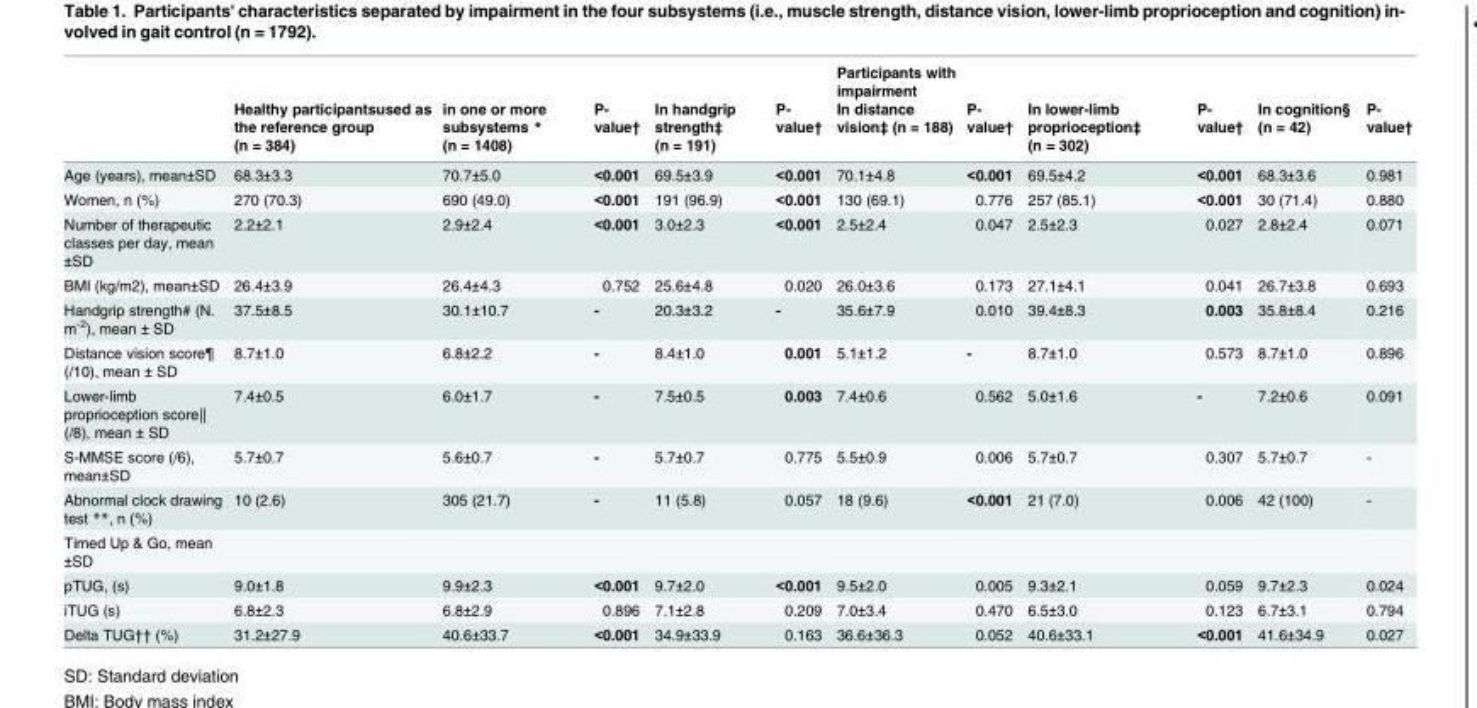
<table><thead><tr><td rowspan="2"></td><td rowspan="2">Healthy participantsused as the reference group (n = 384)</td><td rowspan="2">in one or more subsystems * (n = 1408)</td><td rowspan="2">P- value†</td><td rowspan="2">In handgrip strength‡ (n = 191)</td><td rowspan="2">P- value†</td><td rowspan="2">Participants with impairment In distance vision‡ (n = 188)</td><td rowspan="2">P- value†</td><td rowspan="2">In lower-limb proprioception‡ (n = 302)</td><td rowspan="2">P- value†</td><td rowspan="2">In cognition§ (n = 42)</td><td rowspan="2">P- value†</td></tr><tr></tr></thead><tbody><tr><td>Age (years), mean±SD</td><td>68.3±3.3</td><td>70.7±5.0</td><td>&lt;0.001</td><td>69.5±3.9</td><td>&lt;0.001</td><td>70.1±4.8</td><td>&lt;0.001</td><td>69.5±4.2</td><td>&lt;0.001</td><td>68.3±3.6</td><td>0.981</td></tr><tr><td>Women, n (%)</td><td>270 (70.3)</td><td>690 (49.0)</td><td>&lt;0.001</td><td>191 (96.9)</td><td>&lt;0.001</td><td>130 (69.1)</td><td>0.776</td><td>257 (85.1)</td><td>&lt;0.001</td><td>30 (71.4)</td><td>0.880</td></tr><tr><td>Number of therapeutic classes per day, mean ±SD</td><td>2.2±2.1</td><td>2.9±2.4</td><td>&lt;0.001</td><td>3.0±2.3</td><td>&lt;0.001</td><td>2.5±2.4</td><td>0.047</td><td>2.5±2.3</td><td>0.027</td><td>2.8±2.4</td><td>0.071</td></tr><tr><td>BMI (kg/m2), mean±SD</td><td>26.4±3.9</td><td>26.4±4.3</td><td>0.752</td><td>25.6±4.8</td><td>0.020</td><td>26.0±3.6</td><td>0.173</td><td>27.1±4.1</td><td>0.041</td><td>26.7±3.8</td><td>0.693</td></tr><tr><td>Handgrip strength# (N. m<sup>-2</sup>), mean ± SD</td><td>37.5±8.5</td><td>30.1±10.7</td><td>-</td><td>20.3±3.2</td><td>-</td><td>35.6±7.9</td><td>0.010</td><td>39.4±8.3</td><td>0.003</td><td>35.8±8.4</td><td>0.216</td></tr><tr><td>Distance vision score¶ (/10), mean ± SD</td><td>8.7±1.0</td><td>6.8±2.2</td><td>-</td><td>8.4±1.0</td><td>0.001</td><td>5.1±1.2</td><td>-</td><td>8.7±1.0</td><td>0.573</td><td>8.7±1.0</td><td>0.896</td></tr><tr><td>Lower-limb proprioception score|| (/8), mean ± SD</td><td>7.4±0.5</td><td>6.0±1.7</td><td>-</td><td>7.5±0.5</td><td>0.003</td><td>7.4±0.6</td><td>0.562</td><td>5.0±1.6</td><td>-</td><td>7.2±0.6</td><td>0.091</td></tr><tr><td>S-MMSE score (/6), mean±SD</td><td>5.7±0.7</td><td>5.6±0.7</td><td>-</td><td>5.7±0.7</td><td>0.775</td><td>5.5±0.9</td><td>0.006</td><td>5.7±0.7</td><td>0.307</td><td>5.7±0.7</td><td>-</td></tr><tr><td>Abnormal clock drawing test **, n (%)</td><td>10 (2.6)</td><td>305 (21.7)</td><td>-</td><td>11 (5.8)</td><td>0.057</td><td>18 (9.6)</td><td>&lt;0.001</td><td>21 (7.0)</td><td>0.006</td><td>42 (100)</td><td>-</td></tr><tr><td colspan="12">Timed Up &amp; Go, mean ±SD</td></tr><tr><td>pTUG, (s)</td><td>9.0±1.8</td><td>9.9±2.3</td><td>&lt;0.001</td><td>9.7±2.0</td><td>&lt;0.001</td><td>9.5±2.0</td><td>0.005</td><td>9.3±2.1</td><td>0.059</td><td>9.7±2.3</td><td>0.024</td></tr><tr><td>iTUG (s)</td><td>6.8±2.3</td><td>6.8±2.9</td><td>0.896</td><td>7.1±2.8</td><td>0.209</td><td>7.0±3.4</td><td>0.470</td><td>6.5±3.0</td><td>0.123</td><td>6.7±3.1</td><td>0.794</td></tr><tr><td>Delta TUG†† (%)</td><td>31.2±27.9</td><td>40.6±33.7</td><td>&lt;0.001</td><td>34.9±33.9</td><td>0.163</td><td>36.6±36.3</td><td>0.052</td><td>40.6±33.1</td><td>&lt;0.001</td><td>41.6±34.9</td><td>0.027</td></tr></tbody></table>